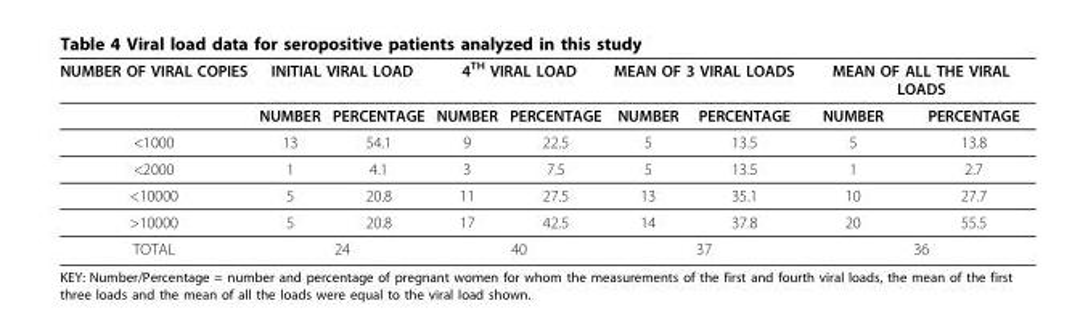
<table><thead><tr><td rowspan="2">NUMBER OF VIRAL COPIES</td><td colspan="2">INITIAL VIRAL LOAD</td><td colspan="2">4<sup>TH</sup> VIRAL LOAD</td><td colspan="2">MEAN OF 3 VIRAL LOADS</td><td colspan="2">MEAN OF ALL THE VIRAL LOADS</td></tr><tr><td>NUMBER</td><td>PERCENTAGE</td><td>NUMBER</td><td>PERCENTAGE</td><td>NUMBER</td><td>PERCENTAGE</td><td>NUMBER</td><td>PERCENTAGE</td></tr></thead><tbody><tr><td>&lt;1000</td><td>13</td><td>54.1</td><td>9</td><td>22.5</td><td>5</td><td>13.5</td><td>5</td><td>13.8</td></tr><tr><td>&lt;2000</td><td>1</td><td>4.1</td><td>3</td><td>7.5</td><td>5</td><td>13.5</td><td>1</td><td>2.7</td></tr><tr><td>&lt;10000</td><td>5</td><td>20.8</td><td>11</td><td>27.5</td><td>13</td><td>35.1</td><td>10</td><td>27.7</td></tr><tr><td>&gt;10000</td><td>5</td><td>20.8</td><td>17</td><td>42.5</td><td>14</td><td>37.8</td><td>20</td><td>55.5</td></tr><tr><td>TOTAL</td><td colspan="2">24</td><td colspan="2">40</td><td colspan="2">37</td><td colspan="2">36</td></tr></tbody></table>